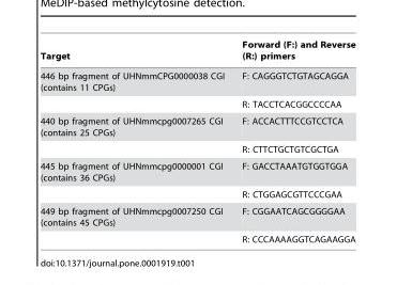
<table><thead><tr><td>Target</td><td>Forward (F:) and Reverse (R:) primers</td></tr></thead><tbody><tr><td rowspan="2">446 bp fragment of UHNmmCPG0000038 CGI (contains 11 CPGs)</td><td>F: CAGGGTCTGTAGCAGGA</td></tr><tr><td>R: TACCTCACGGCCCCAA</td></tr><tr><td rowspan="2">440 bp fragment of UHNmmcpg0007265 CGI (contains 25 CPGs)</td><td>F: ACCACTTTCCGTCCTCA</td></tr><tr><td>R: CTTCTGCTGTCGCTGA</td></tr><tr><td rowspan="2">445 bp fragment of UHNmmcpg0000001 CGI (contains 36 CPGs)</td><td>F: GACCTAAATGTGGTGGA</td></tr><tr><td>R: CTGGAGCGTTCCCGAA</td></tr><tr><td rowspan="2">449 bp fragment of UHNmmcpg0007250 CGI (contains 45 CPGs)</td><td>F: CGGAATCAGCGGGGAA</td></tr><tr><td>R: CCCAAAAGGTCAGAAGGA</td></tr></tbody></table>